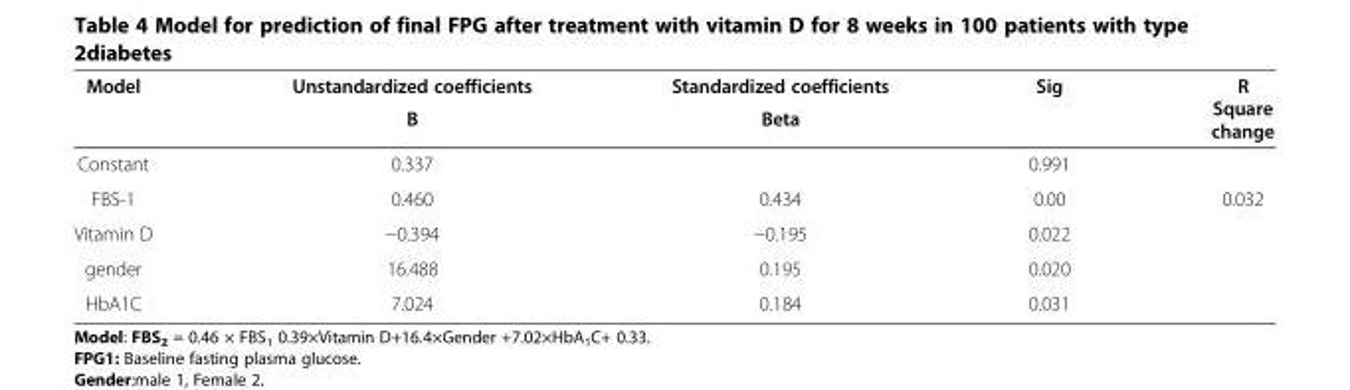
<table><thead><tr><td rowspan="2">Model</td><td rowspan="2">Unstandardized coefficients B</td><td rowspan="2">Standardized coefficients Beta</td><td rowspan="2">Sig</td><td rowspan="2">R Square change</td></tr><tr></tr></thead><tbody><tr><td>Constant</td><td>0.337</td><td></td><td>0.991</td><td></td></tr><tr><td>FBS-1</td><td>0.460</td><td>0.434</td><td>0.00</td><td>0.032</td></tr><tr><td>Vitamin D</td><td>−0.394</td><td>−0.195</td><td>0.022</td><td></td></tr><tr><td>gender</td><td>16.488</td><td>0.195</td><td>0.020</td><td></td></tr><tr><td>HbA1C</td><td>7.024</td><td>0.184</td><td>0.031</td><td></td></tr></tbody></table>